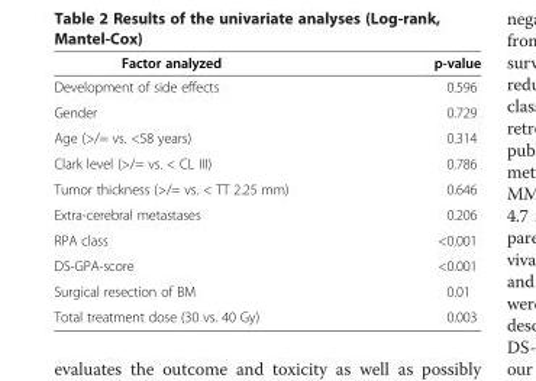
<table><thead><tr><td>Factor analyzed</td><td>p-value</td></tr></thead><tbody><tr><td>Development of side effects</td><td>0.596</td></tr><tr><td>Gender</td><td>0.729</td></tr><tr><td>Age (&gt;/= vs. &lt;58 years)</td><td>0.314</td></tr><tr><td>Clark level (&gt;/= vs. &lt; CL III)</td><td>0.786</td></tr><tr><td>Tumor thickness (&gt;/= vs. &lt; TT 2.25 mm)</td><td>0.646</td></tr><tr><td>Extra-cerebral metastases</td><td>0.206</td></tr><tr><td>RPA class</td><td>&lt;0.001</td></tr><tr><td>DS-GPA-score</td><td>&lt;0.001</td></tr><tr><td>Surgical resection of BM</td><td>0.01</td></tr><tr><td>Total treatment dose (30 vs. 40 Gy)</td><td>0.003</td></tr></tbody></table>